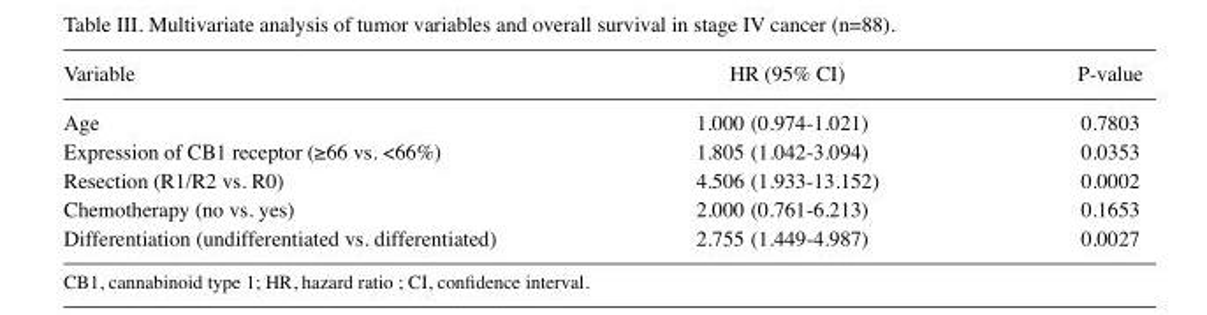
<table><thead><tr><td>Variable</td><td>HR (95% CI)</td><td>P-value</td></tr></thead><tbody><tr><td>Age</td><td>1.000 (0.974-1.021)</td><td>0.7803</td></tr><tr><td>Expression of CB1 receptor (≥66 vs. &lt;66%)</td><td>1.805 (1.042-3.094)</td><td>0.0353</td></tr><tr><td>Resection (R1/R2 vs. R0)</td><td>4.506 (1.933-13.152)</td><td>0.0002</td></tr><tr><td>Chemotherapy (no vs. yes)</td><td>2.000 (0.761-6.213)</td><td>0.1653</td></tr><tr><td>Differentiation (undifferentiated vs. differentiated)</td><td>2.755 (1.449-4.987)</td><td>0.0027</td></tr></tbody></table>